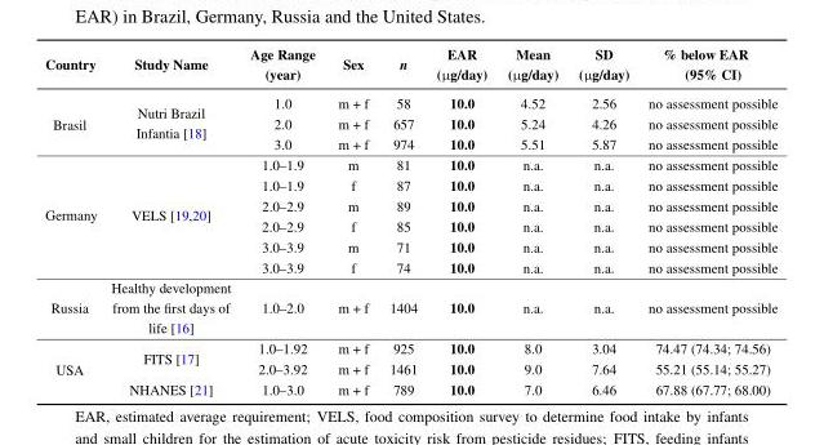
<table><thead><tr><td>Country</td><td>Study Name</td><td>Age Range (year)</td><td>Sex</td><td>n</td><td>EAR (µg/day)</td><td>Mean (µg/day)</td><td>SD (µg/day)</td><td>% below EAR (95% CI)</td></tr></thead><tbody><tr><td rowspan="3">Brasil</td><td rowspan="3">Nutri Brazil Infantia [18]</td><td>1.0</td><td>m + f</td><td>58</td><td>10.0</td><td>4.52</td><td>2.56</td><td>no assessment possible</td></tr><tr><td>2.0</td><td>m + f</td><td>657</td><td>10.0</td><td>5.24</td><td>4.26</td><td>no assessment possible</td></tr><tr><td>3.0</td><td>m + f</td><td>974</td><td>10.0</td><td>5.51</td><td>5.87</td><td>no assessment possible</td></tr><tr><td rowspan="6">Germany</td><td rowspan="6">VELS [19,20]</td><td>1.0–1.9</td><td>m</td><td>81</td><td>10.0</td><td>n.a.</td><td>n.a.</td><td>no assessment possible</td></tr><tr><td>1.0–1.9</td><td>f</td><td>87</td><td>10.0</td><td>n.a.</td><td>n.a.</td><td>no assessment possible</td></tr><tr><td>2.0–2.9</td><td>m</td><td>89</td><td>10.0</td><td>n.a.</td><td>n.a.</td><td>no assessment possible</td></tr><tr><td>2.0–2.9</td><td>f</td><td>85</td><td>10.0</td><td>n.a.</td><td>n.a.</td><td>no assessment possible</td></tr><tr><td>3.0–3.9</td><td>m</td><td>71</td><td>10.0</td><td>n.a.</td><td>n.a.</td><td>no assessment possible</td></tr><tr><td>3.0–3.9</td><td>f</td><td>74</td><td>10.0</td><td>n.a.</td><td>n.a.</td><td>no assessment possible</td></tr><tr><td>Russia</td><td>Healthy development from the first days of life [16]</td><td>1.0–2.0</td><td>m + f</td><td>1404</td><td>10.0</td><td>n.a.</td><td>n.a.</td><td>no assessment possible</td></tr><tr><td rowspan="3">USA</td><td rowspan="2">FITS [17]</td><td>1.0–1.92</td><td>m + f</td><td>925</td><td>10.0</td><td>8.0</td><td>3.04</td><td>74.47 (74.34; 74.56)</td></tr><tr><td>2.0–3.92</td><td>m + f</td><td>1461</td><td>10.0</td><td>9.0</td><td>7.64</td><td>55.21 (55.14; 55.27)</td></tr><tr><td>NHANES [21]</td><td>1.0–3.0</td><td>m + f</td><td>789</td><td>10.0</td><td>7.0</td><td>6.46</td><td>67.88 (67.77; 68.00)</td></tr></tbody></table>